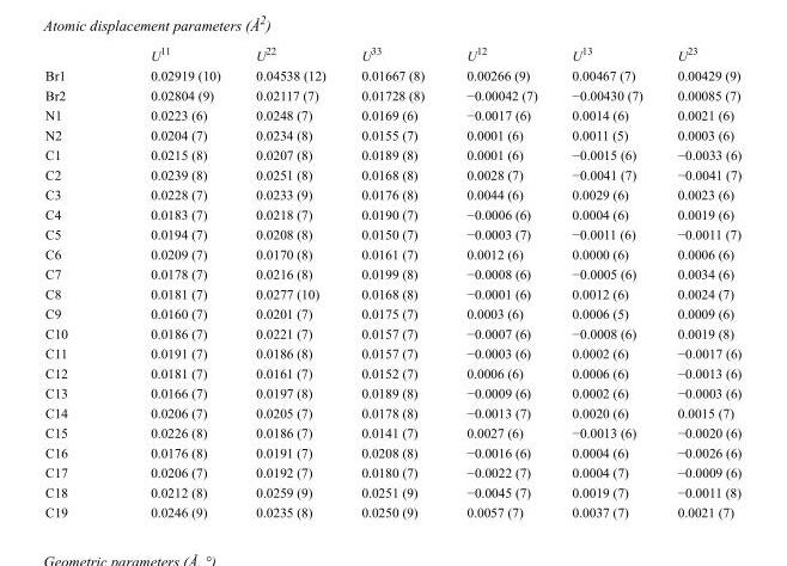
<table><thead><tr><td></td><td>U<sup>11</sup></td><td>U<sup>22</sup></td><td>U<sup>33</sup></td><td>U<sup>12</sup></td><td>U<sup>13</sup></td><td>U<sup>23</sup></td></tr></thead><tbody><tr><td>Br1</td><td>0.02919 (10)</td><td>0.04538 (12)</td><td>0.01667 (8)</td><td>0.00266 (9)</td><td>0.00467 (7)</td><td>0.00429 (9)</td></tr><tr><td>Br2</td><td>0.02804 (9)</td><td>0.02117 (7)</td><td>0.01728 (8)</td><td>−0.00042 (7)</td><td>−0.00430 (7)</td><td>0.00085 (7)</td></tr><tr><td>N1</td><td>0.0223 (6)</td><td>0.0248 (7)</td><td>0.0169 (6)</td><td>−0.0017 (6)</td><td>0.0014 (6)</td><td>0.0021 (6)</td></tr><tr><td>N2</td><td>0.0204 (7)</td><td>0.0234 (8)</td><td>0.0155 (7)</td><td>0.0001 (6)</td><td>0.0011 (5)</td><td>0.0003 (6)</td></tr><tr><td>C1</td><td>0.0215 (8)</td><td>0.0207 (8)</td><td>0.0189 (8)</td><td>0.0001 (6)</td><td>−0.0015 (6)</td><td>−0.0033 (6)</td></tr><tr><td>C2</td><td>0.0239 (8)</td><td>0.0251 (8)</td><td>0.0168 (8)</td><td>0.0028 (7)</td><td>−0.0041 (7)</td><td>−0.0041 (7)</td></tr><tr><td>C3</td><td>0.0228 (7)</td><td>0.0233 (9)</td><td>0.0176 (8)</td><td>0.0044 (6)</td><td>0.0029 (6)</td><td>0.0023 (6)</td></tr><tr><td>C4</td><td>0.0183 (7)</td><td>0.0218 (7)</td><td>0.0190 (7)</td><td>−0.0006 (6)</td><td>0.0004 (6)</td><td>0.0019 (6)</td></tr><tr><td>C5</td><td>0.0194 (7)</td><td>0.0208 (8)</td><td>0.0150 (7)</td><td>−0.0003 (7)</td><td>−0.0011 (6)</td><td>−0.0011 (7)</td></tr><tr><td>C6</td><td>0.0209 (7)</td><td>0.0170 (8)</td><td>0.0161 (7)</td><td>0.0012 (6)</td><td>0.0000 (6)</td><td>0.0006 (6)</td></tr><tr><td>C7</td><td>0.0178 (7)</td><td>0.0216 (8)</td><td>0.0199 (8)</td><td>−0.0008 (6)</td><td>−0.0005 (6)</td><td>0.0034 (6)</td></tr><tr><td>C8</td><td>0.0181 (7)</td><td>0.0277 (10)</td><td>0.0168 (8)</td><td>−0.0001 (6)</td><td>0.0012 (6)</td><td>0.0024 (7)</td></tr><tr><td>C9</td><td>0.0160 (7)</td><td>0.0201 (7)</td><td>0.0175 (7)</td><td>0.0003 (6)</td><td>0.0006 (5)</td><td>0.0009 (6)</td></tr><tr><td>C10</td><td>0.0186 (7)</td><td>0.0221 (7)</td><td>0.0157 (7)</td><td>−0.0007 (6)</td><td>−0.0008 (6)</td><td>0.0019 (8)</td></tr><tr><td>C11</td><td>0.0191 (7)</td><td>0.0186 (8)</td><td>0.0157 (7)</td><td>−0.0003 (6)</td><td>0.0002 (6)</td><td>−0.0017 (6)</td></tr><tr><td>C12</td><td>0.0181 (7)</td><td>0.0161 (7)</td><td>0.0152 (7)</td><td>0.0006 (6)</td><td>0.0006 (6)</td><td>−0.0013 (6)</td></tr><tr><td>C13</td><td>0.0166 (7)</td><td>0.0197 (8)</td><td>0.0189 (8)</td><td>−0.0009 (6)</td><td>0.0002 (6)</td><td>−0.0003 (6)</td></tr><tr><td>C14</td><td>0.0206 (7)</td><td>0.0205 (7)</td><td>0.0178 (8)</td><td>−0.0013 (7)</td><td>0.0020 (6)</td><td>0.0015 (7)</td></tr><tr><td>C15</td><td>0.0226 (8)</td><td>0.0186 (7)</td><td>0.0141 (7)</td><td>0.0027 (6)</td><td>−0.0013 (6)</td><td>−0.0020 (6)</td></tr><tr><td>C16</td><td>0.0176 (8)</td><td>0.0191 (7)</td><td>0.0208 (8)</td><td>−0.0016 (6)</td><td>0.0004 (6)</td><td>−0.0026 (6)</td></tr><tr><td>C17</td><td>0.0206 (7)</td><td>0.0192 (7)</td><td>0.0180 (7)</td><td>−0.0022 (7)</td><td>0.0004 (7)</td><td>−0.0009 (6)</td></tr><tr><td>C18</td><td>0.0212 (8)</td><td>0.0259 (9)</td><td>0.0251 (9)</td><td>−0.0045 (7)</td><td>0.0019 (7)</td><td>−0.0011 (8)</td></tr><tr><td>C19</td><td>0.0246 (9)</td><td>0.0235 (8)</td><td>0.0250 (9)</td><td>0.0057 (7)</td><td>0.0037 (7)</td><td>0.0021 (7)</td></tr></tbody></table>